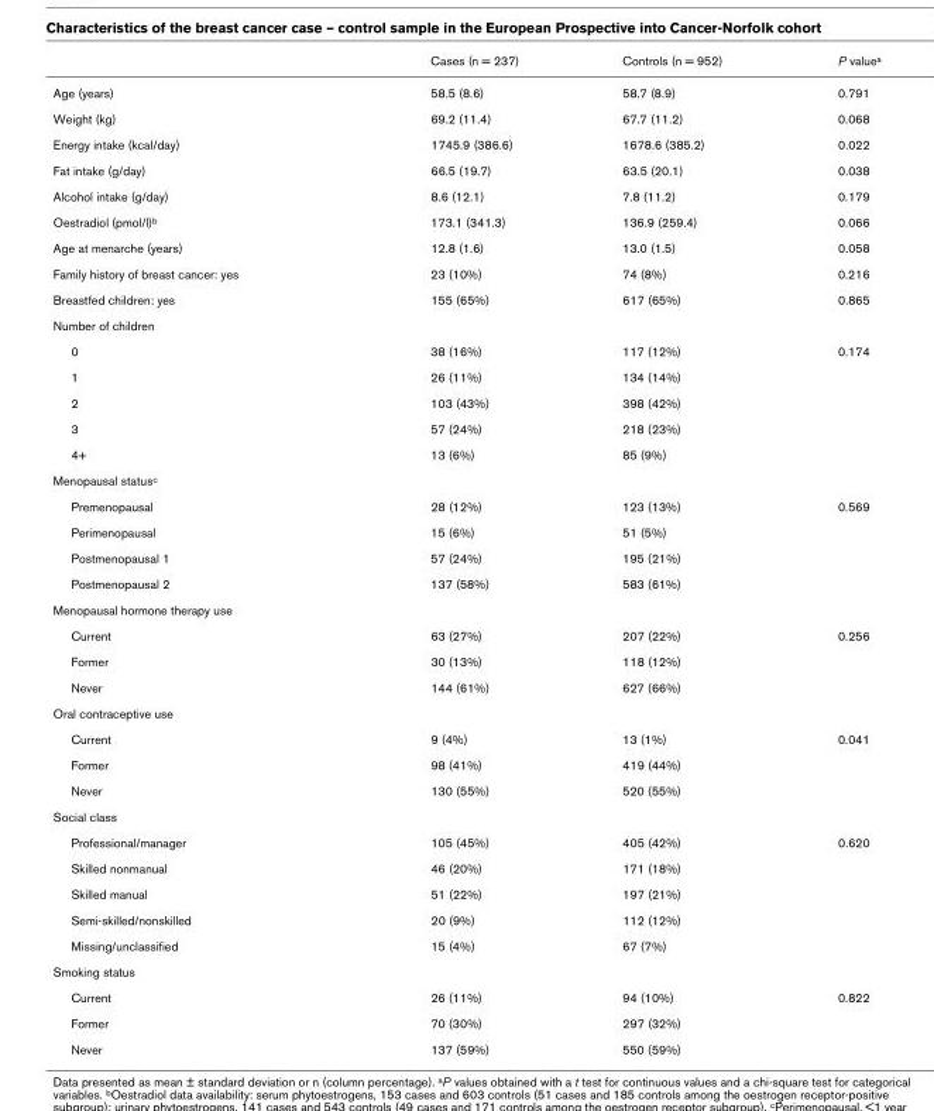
<table><thead><tr><td></td><td>Cases (n = 237)</td><td>Controls (n = 952)</td><td>P value<sup>a</sup></td></tr></thead><tbody><tr><td>Age (years)</td><td>58.5 (8.6)</td><td>58.7 (8.9)</td><td>0.791</td></tr><tr><td>Weight (kg)</td><td>69.2 (11.4)</td><td>67.7 (11.2)</td><td>0.068</td></tr><tr><td>Energy intake (kcal/day)</td><td>1745.9 (386.6)</td><td>1678.6 (385.2)</td><td>0.022</td></tr><tr><td>Fat intake (g/day)</td><td>66.5 (19.7)</td><td>63.5 (20.1)</td><td>0.038</td></tr><tr><td>Alcohol intake (g/day)</td><td>8.6 (12.1)</td><td>7.8 (11.2)</td><td>0.179</td></tr><tr><td>Oestradiol (pmol/l)<sup>b</sup></td><td>173.1 (341.3)</td><td>136.9 (259.4)</td><td>0.066</td></tr><tr><td>Age at menarche (years)</td><td>12.8 (1.6)</td><td>13.0 (1.5)</td><td>0.058</td></tr><tr><td>Family history of breast cancer: yes</td><td>23 (10%)</td><td>74 (8%)</td><td>0.216</td></tr><tr><td>Breastfed children: yes</td><td>155 (65%)</td><td>617 (65%)</td><td>0.865</td></tr><tr><td colspan="4">Number of children</td></tr><tr><td>0</td><td>38 (16%)</td><td>117 (12%)</td><td>0.174</td></tr><tr><td>1</td><td>26 (11%)</td><td>134 (14%)</td><td></td></tr><tr><td>2</td><td>103 (43%)</td><td>398 (42%)</td><td></td></tr><tr><td>3</td><td>57 (24%)</td><td>218 (23%)</td><td></td></tr><tr><td>4+</td><td>13 (6%)</td><td>85 (9%)</td><td></td></tr><tr><td colspan="4">Menopausal status<sup>c</sup></td></tr><tr><td>Premenopausal</td><td>28 (12%)</td><td>123 (13%)</td><td>0.569</td></tr><tr><td>Perimenopausal</td><td>15 (6%)</td><td>51 (5%)</td><td></td></tr><tr><td>Postmenopausal 1</td><td>57 (24%)</td><td>195 (21%)</td><td></td></tr><tr><td>Postmenopausal 2</td><td>137 (58%)</td><td>583 (61%)</td><td></td></tr><tr><td colspan="4">Menopausal hormone therapy use</td></tr><tr><td>Current</td><td>63 (27%)</td><td>207 (22%)</td><td>0.256</td></tr><tr><td>Former</td><td>30 (13%)</td><td>118 (12%)</td><td></td></tr><tr><td>Never</td><td>144 (61%)</td><td>627 (66%)</td><td></td></tr><tr><td colspan="4">Oral contraceptive use</td></tr><tr><td>Current</td><td>9 (4%)</td><td>13 (1%)</td><td>0.041</td></tr><tr><td>Former</td><td>98 (41%)</td><td>419 (44%)</td><td></td></tr><tr><td>Never</td><td>130 (55%)</td><td>520 (55%)</td><td></td></tr><tr><td colspan="4">Social class</td></tr><tr><td>Professional/manager</td><td>105 (45%)</td><td>405 (42%)</td><td>0.620</td></tr><tr><td>Skilled nonmanual</td><td>46 (20%)</td><td>171 (18%)</td><td></td></tr><tr><td>Skilled manual</td><td>51 (22%)</td><td>197 (21%)</td><td></td></tr><tr><td>Semi-skilled/nonskilled</td><td>20 (9%)</td><td>112 (12%)</td><td></td></tr><tr><td>Missing/unclassified</td><td>15 (4%)</td><td>67 (7%)</td><td></td></tr><tr><td colspan="4">Smoking status</td></tr><tr><td>Current</td><td>26 (11%)</td><td>94 (10%)</td><td>0.822</td></tr><tr><td>Former</td><td>70 (30%)</td><td>297 (32%)</td><td></td></tr><tr><td>Never</td><td>137 (59%)</td><td>550 (59%)</td><td></td></tr></tbody></table>